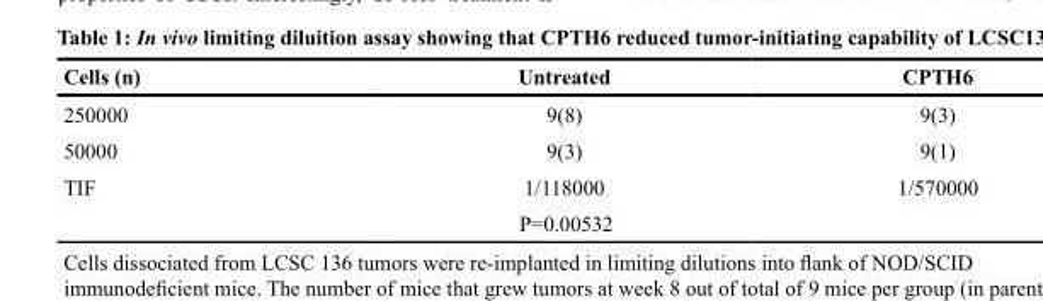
<table><thead><tr><td>Cells (n)</td><td>Untreated</td><td>CPTH6</td></tr></thead><tbody><tr><td>250000</td><td>9(8)</td><td>9(3)</td></tr><tr><td>50000</td><td>9(3)</td><td>9(1)</td></tr><tr><td rowspan="2">TIF</td><td>1/118000</td><td>1/570000</td></tr><tr><td>P=0.00532</td><td></td></tr></tbody></table>